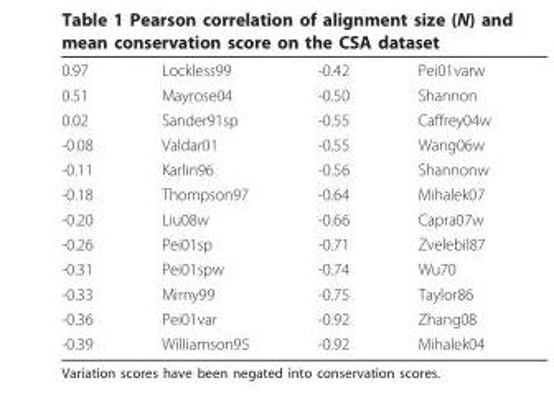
<table><tbody><tr><td>0.97</td><td>Lockless99</td><td>-0.42</td><td>Pei01varw</td></tr><tr><td>0.51</td><td>Mayrose04</td><td>-0.50</td><td>Shannon</td></tr><tr><td>0.02</td><td>Sander91sp</td><td>-0.55</td><td>Caffrey04w</td></tr><tr><td>-0.08</td><td>Valdar01</td><td>-0.55</td><td>Wang06w</td></tr><tr><td>-0.11</td><td>Karlin96</td><td>-0.56</td><td>Shannonw</td></tr><tr><td>-0.18</td><td>Thompson97</td><td>-0.64</td><td>Mihalek07</td></tr><tr><td>-0.20</td><td>Liu08w</td><td>-0.66</td><td>Capra07w</td></tr><tr><td>-0.26</td><td>Pei01sp</td><td>-0.71</td><td>Zvelebil87</td></tr><tr><td>-0.31</td><td>Pei01spw</td><td>-0.74</td><td>Wu70</td></tr><tr><td>-0.33</td><td>Mirny99</td><td>-0.75</td><td>Taylor86</td></tr><tr><td>-0.36</td><td>Pei01var</td><td>-0.92</td><td>Zhang08</td></tr><tr><td>-0.39</td><td>Williamson95</td><td>-0.92</td><td>Mihalek04</td></tr></tbody></table>